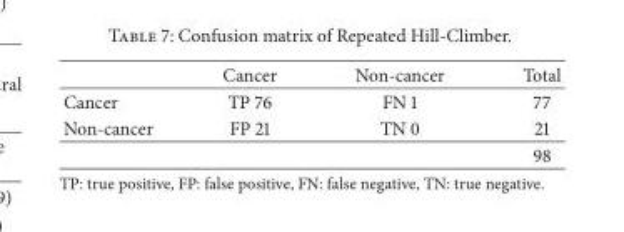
<table><thead><tr><td></td><td>Cancer</td><td>Non-cancer</td><td>Total</td></tr></thead><tbody><tr><td>Cancer</td><td>TP 76</td><td>FN 1</td><td>77</td></tr><tr><td rowspan="2">Non-cancer</td><td>FP 21</td><td>TN 0</td><td>21</td></tr><tr><td></td><td></td><td>98</td></tr></tbody></table>